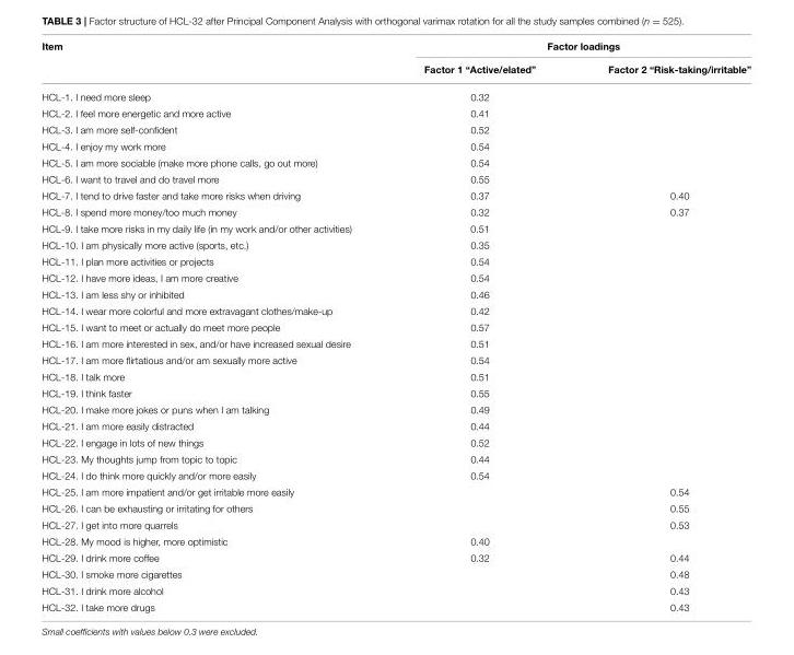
<table><thead><tr><td rowspan="2">Item</td><td colspan="2">Factor loadings</td></tr><tr><td>Factor 1 “Active/elated”</td><td>Factor 2 “Risk-taking/irritable”</td></tr></thead><tbody><tr><td>HCL-1. I need more sleep</td><td>0.32</td><td></td></tr><tr><td>HCL-2. I feel more energetic and more active</td><td>0.41</td><td></td></tr><tr><td>HCL-3. I am more self-confident</td><td>0.52</td><td></td></tr><tr><td>HCL-4. I enjoy my work more</td><td>0.54</td><td></td></tr><tr><td>HCL-5. I am more sociable (make more phone calls, go out more)</td><td>0.54</td><td></td></tr><tr><td>HCL-6. I want to travel and do travel more</td><td>0.55</td><td></td></tr><tr><td>HCL-7. I tend to drive faster and take more risks when driving</td><td>0.37</td><td>0.40</td></tr><tr><td>HCL-8. I spend more money/too much money</td><td>0.32</td><td>0.37</td></tr><tr><td>HCL-9. I take more risks in my daily life (in my work and/or other activities)</td><td>0.51</td><td></td></tr><tr><td>HCL-10. I am physically more active (sports, etc.)</td><td>0.35</td><td></td></tr><tr><td>HCL-11. I plan more activities or projects</td><td>0.54</td><td></td></tr><tr><td>HCL-12. I have more ideas, I am more creative</td><td>0.54</td><td></td></tr><tr><td>HCL-13. I am less shy or inhibited</td><td>0.46</td><td></td></tr><tr><td>HCL-14. I wear more colorful and more extravagant clothes/make-up</td><td>0.42</td><td></td></tr><tr><td>HCL-15. I want to meet or actually do meet more people</td><td>0.57</td><td></td></tr><tr><td>HCL-16. I am more interested in sex, and/or have increased sexual desire</td><td>0.51</td><td></td></tr><tr><td>HCL-17. I am more flirtatious and/or am sexually more active</td><td>0.54</td><td></td></tr><tr><td>HCL-18. I talk more</td><td>0.51</td><td></td></tr><tr><td>HCL-19. I think faster</td><td>0.55</td><td></td></tr><tr><td>HCL-20. I make more jokes or puns when I am talking</td><td>0.49</td><td></td></tr><tr><td>HCL-21. I am more easily distracted</td><td>0.44</td><td></td></tr><tr><td>HCL-22. I engage in lots of new things</td><td>0.52</td><td></td></tr><tr><td>HCL-23. My thoughts jump from topic to topic</td><td>0.44</td><td></td></tr><tr><td>HCL-24. I do think more quickly and/or more easily</td><td>0.54</td><td></td></tr><tr><td>HCL-25. I am more impatient and/or get irritable more easily</td><td></td><td>0.54</td></tr><tr><td>HCL-26. I can be exhausting or irritating for others</td><td></td><td>0.55</td></tr><tr><td>HCL-27. I get into more quarrels</td><td></td><td>0.53</td></tr><tr><td>HCL-28. My mood is higher, more optimistic</td><td>0.40</td><td></td></tr><tr><td>HCL-29. I drink more coffee</td><td>0.32</td><td>0.44</td></tr><tr><td>HCL-30. I smoke more cigarettes</td><td></td><td>0.48</td></tr><tr><td>HCL-31. I drink more alcohol</td><td></td><td>0.43</td></tr><tr><td>HCL-32. I take more drugs</td><td></td><td>0.43</td></tr></tbody></table>